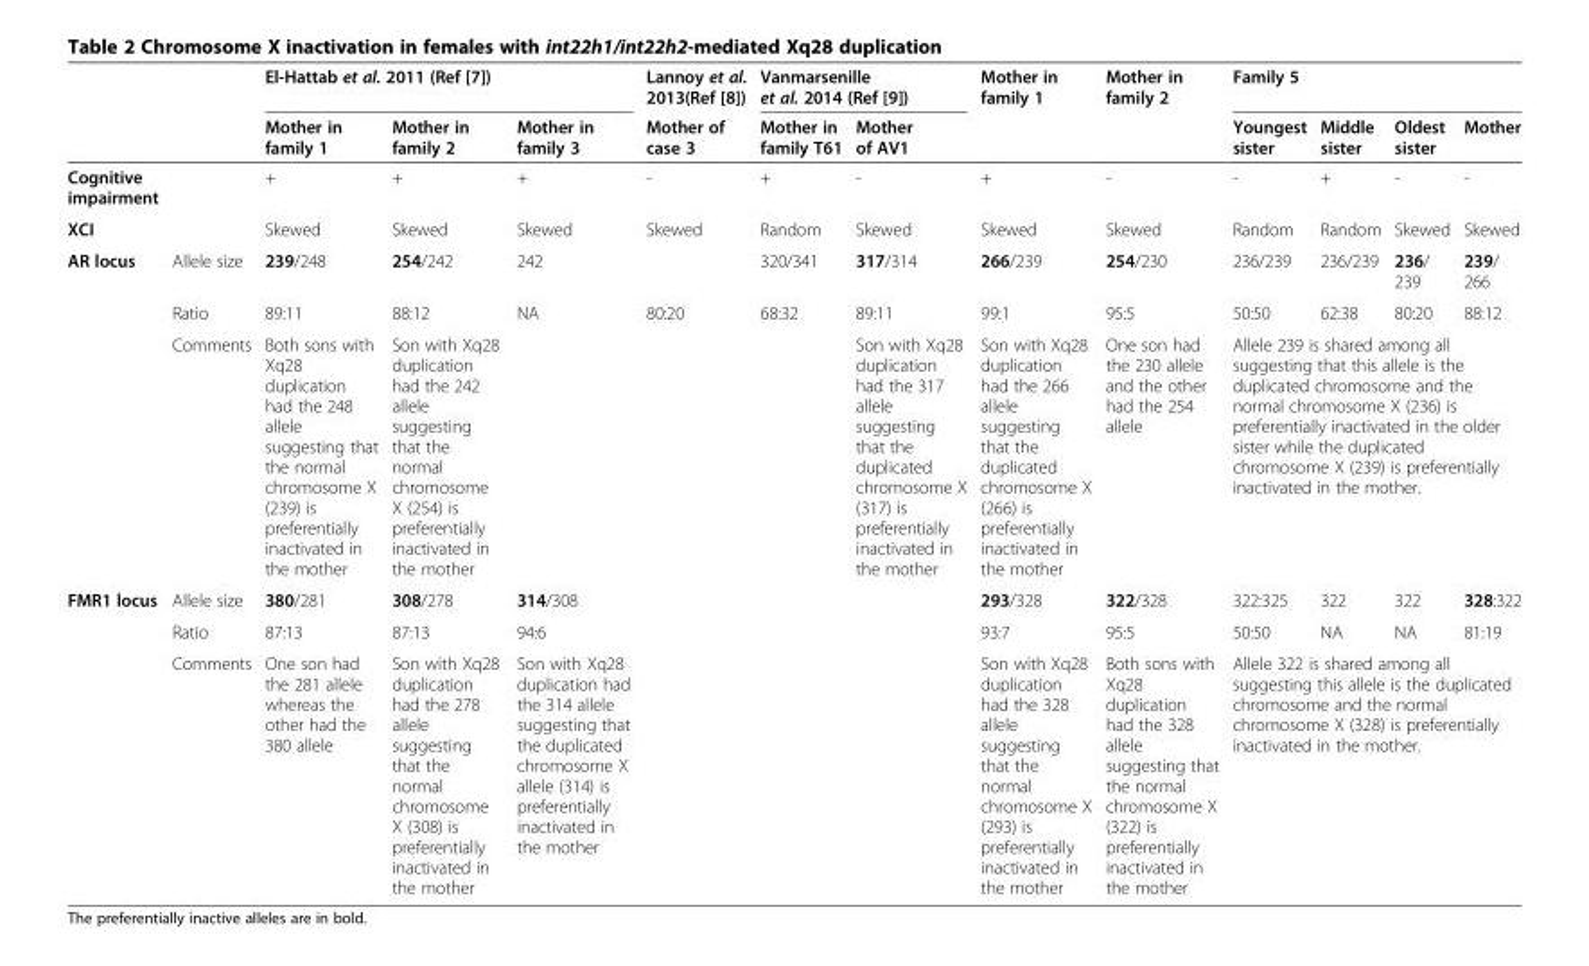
<table><thead><tr><td rowspan="2"></td><td rowspan="2"></td><td colspan="3">El-Hattab et al. 2011 (Ref [7])</td><td rowspan="2">Lannoy et al. 2013(Ref [8]) Mother of case 3</td><td colspan="2">Vanmarsenille et al. 2014 (Ref [9])</td><td rowspan="2">Mother in family 1</td><td rowspan="2">Mother in family 2</td><td colspan="4">Family 5</td></tr><tr><td>Mother in family 1</td><td>Mother in family 2</td><td>Mother in family 3</td><td>Mother in family T61</td><td>Mother of AV1</td><td>Youngest sister</td><td>Middle sister</td><td>Oldest sister</td><td>Mother</td></tr></thead><tbody><tr><td>Cognitive impairment</td><td></td><td>+</td><td>+</td><td>+</td><td>-</td><td>+</td><td>-</td><td>+</td><td>-</td><td>-</td><td>+</td><td>-</td><td>-</td></tr><tr><td colspan="2">XCI</td><td>Skewed</td><td>Skewed</td><td>Skewed</td><td>Skewed</td><td>Random</td><td>Skewed</td><td>Skewed</td><td>Skewed</td><td>Random</td><td>Random</td><td>Skewed</td><td>Skewed</td></tr><tr><td rowspan="3">AR locus</td><td>Allele size</td><td>239/248</td><td>254/242</td><td>242</td><td></td><td>320/341</td><td>317/314</td><td>266/239</td><td>254/230</td><td>236/239</td><td>236/239</td><td>236/ 239</td><td>239/ 266</td></tr><tr><td>Ratio</td><td>89:11</td><td>88:12</td><td>NA</td><td>80:20</td><td>68:32</td><td>89:11</td><td>99:1</td><td>95:5</td><td>50:50</td><td>62:38</td><td>80:20</td><td>88:12</td></tr><tr><td>Comments</td><td>Both sons with Xq28 duplication had the 248 allele suggesting that the normal chromosome X (239) is preferentially inactivated in the mother</td><td>Son with Xq28 duplication had the 242 allele suggesting that the normal chromosome X (254) is preferentially inactivated in the mother</td><td></td><td></td><td></td><td>Son with Xq28 duplication had the 317 allele suggesting that the duplicated chromosome X (317) is preferentially inactivated in the mother</td><td>Son with Xq28 duplication had the 266 allele suggesting that the duplicated chromosome X (266) is preferentially inactivated in the mother</td><td>One son had the 230 allele and the other had the 254 allele</td><td colspan="4">Allele 239 is shared among all suggesting that this allele is the duplicated chromosome and the normal chromosome X (236) is preferentially inactivated in the older sister while the duplicated chromosome X (239) is preferentially inactivated in the mother.</td></tr><tr><td rowspan="3">FMR1 locus</td><td>Allele size</td><td>380/281</td><td>308/278</td><td>314/308</td><td></td><td></td><td></td><td>293/328</td><td>322/328</td><td>322:325</td><td>322</td><td>322</td><td>328:322</td></tr><tr><td>Ratio</td><td>87:13</td><td>87:13</td><td>94:6</td><td></td><td></td><td></td><td>93:7</td><td>95:5</td><td>50:50</td><td>NA</td><td>NA</td><td>81:19</td></tr><tr><td>Comments</td><td>One son had the 281 allele whereas the other had the 380 allele</td><td>Son with Xq28 duplication had the 278 allele suggesting that the normal chromosome X (308) is preferentially inactivated in the mother</td><td>Son with Xq28 duplication had the 314 allele suggesting that the duplicated chromosome X allele (314) is preferentially inactivated in the mother</td><td></td><td></td><td></td><td>Son with Xq28 duplication had the 328 allele suggesting that the normal chromosome X (293) is preferentially inactivated in the mother</td><td>Both sons with Xq28 duplication had the 328 allele suggesting that the normal chromosome X (322) is preferentially inactivated in the mother</td><td colspan="4">Allele 322 is shared among all suggesting this allele is the duplicated chromosome and the normal chromosome X (328) is preferentially inactivated in the mother.</td></tr></tbody></table>